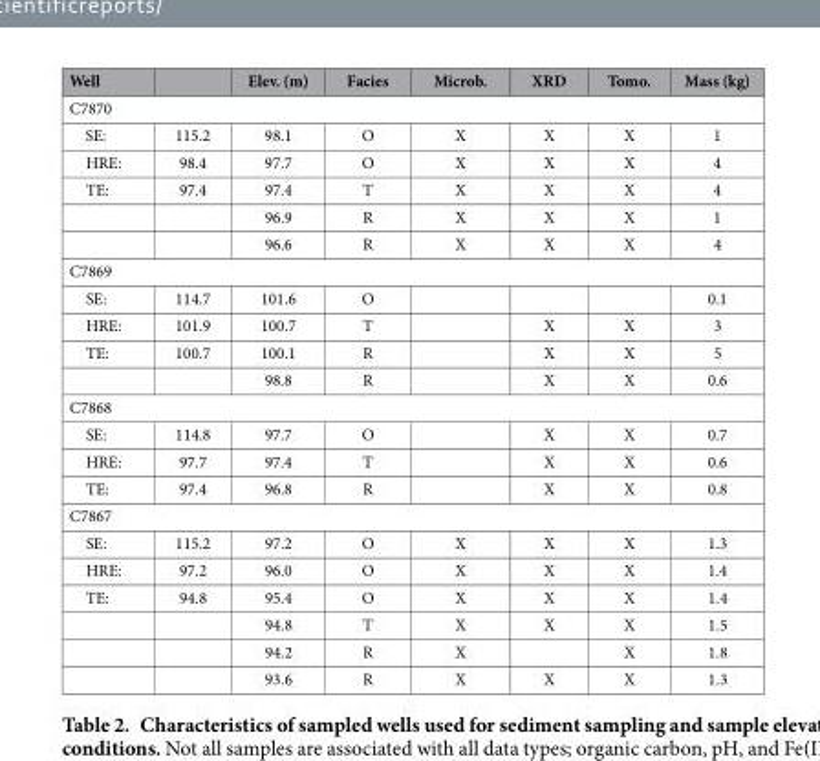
<table><thead><tr><td>Well</td><td></td><td>Elev. (m)</td><td>Facies</td><td>Microb.</td><td>XRD</td><td>Tomo.</td><td>Mass (kg)</td></tr></thead><tbody><tr><td colspan="8">C7870</td></tr><tr><td>SE:</td><td>115.2</td><td>98.1</td><td>O</td><td>X</td><td>X</td><td>X</td><td>1</td></tr><tr><td>HRE:</td><td>98.4</td><td>97.7</td><td>O</td><td>X</td><td>X</td><td>X</td><td>4</td></tr><tr><td rowspan="3">TE:</td><td>97.4</td><td>97.4</td><td>T</td><td>X</td><td>X</td><td>X</td><td>4</td></tr><tr><td></td><td>96.9</td><td>R</td><td>X</td><td>X</td><td>X</td><td>1</td></tr><tr><td></td><td>96.6</td><td>R</td><td>X</td><td>X</td><td>X</td><td>4</td></tr><tr><td colspan="8">C7869</td></tr><tr><td>SE:</td><td>114.7</td><td>101.6</td><td>O</td><td></td><td></td><td></td><td>0.1</td></tr><tr><td>HRE:</td><td>101.9</td><td>100.7</td><td>T</td><td></td><td>X</td><td>X</td><td>3</td></tr><tr><td rowspan="2">TE:</td><td>100.7</td><td>100.1</td><td>R</td><td></td><td>X</td><td>X</td><td>5</td></tr><tr><td></td><td>98.8</td><td>R</td><td></td><td>X</td><td>X</td><td>0.6</td></tr><tr><td colspan="8">C7868</td></tr><tr><td>SE:</td><td>114.8</td><td>97.7</td><td>O</td><td></td><td>X</td><td>X</td><td>0.7</td></tr><tr><td>HRE:</td><td>97.7</td><td>97.4</td><td>T</td><td></td><td>X</td><td>X</td><td>0.6</td></tr><tr><td>TE:</td><td>97.4</td><td>96.8</td><td>R</td><td></td><td>X</td><td>X</td><td>0.8</td></tr><tr><td colspan="8">C7867</td></tr><tr><td>SE:</td><td>115.2</td><td>97.2</td><td>O</td><td>X</td><td>X</td><td>X</td><td>1.3</td></tr><tr><td>HRE:</td><td>97.2</td><td>96.0</td><td>O</td><td>X</td><td>X</td><td>X</td><td>1.4</td></tr><tr><td rowspan="4">TE:</td><td>94.8</td><td>95.4</td><td>O</td><td>X</td><td>X</td><td>X</td><td>1.4</td></tr><tr><td></td><td>94.8</td><td>T</td><td>X</td><td>X</td><td>X</td><td>1.5</td></tr><tr><td></td><td>94.2</td><td>R</td><td>X</td><td></td><td>X</td><td>1.8</td></tr><tr><td></td><td>93.6</td><td>R</td><td>X</td><td>X</td><td>X</td><td>1.3</td></tr></tbody></table>